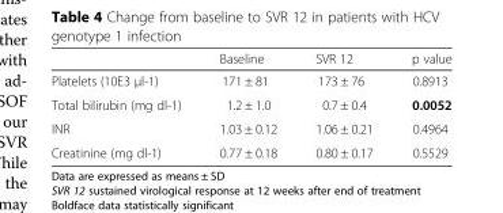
<table><thead><tr><td></td><td>Baseline</td><td>SVR 12</td><td>p value</td></tr></thead><tbody><tr><td>Platelets (10E3 μl-1)</td><td>171 ± 81</td><td>173 ± 76</td><td>0.8913</td></tr><tr><td>Total bilirubin (mg dl-1)</td><td>1.2 ± 1.0</td><td>0.7 ± 0.4</td><td>0.0052</td></tr><tr><td>INR</td><td>1.03 ± 0.12</td><td>1.06 ± 0.21</td><td>0.4964</td></tr><tr><td>Creatinine (mg dl-1)</td><td>0.77 ± 0.18</td><td>0.80 ± 0.17</td><td>0.5529</td></tr></tbody></table>